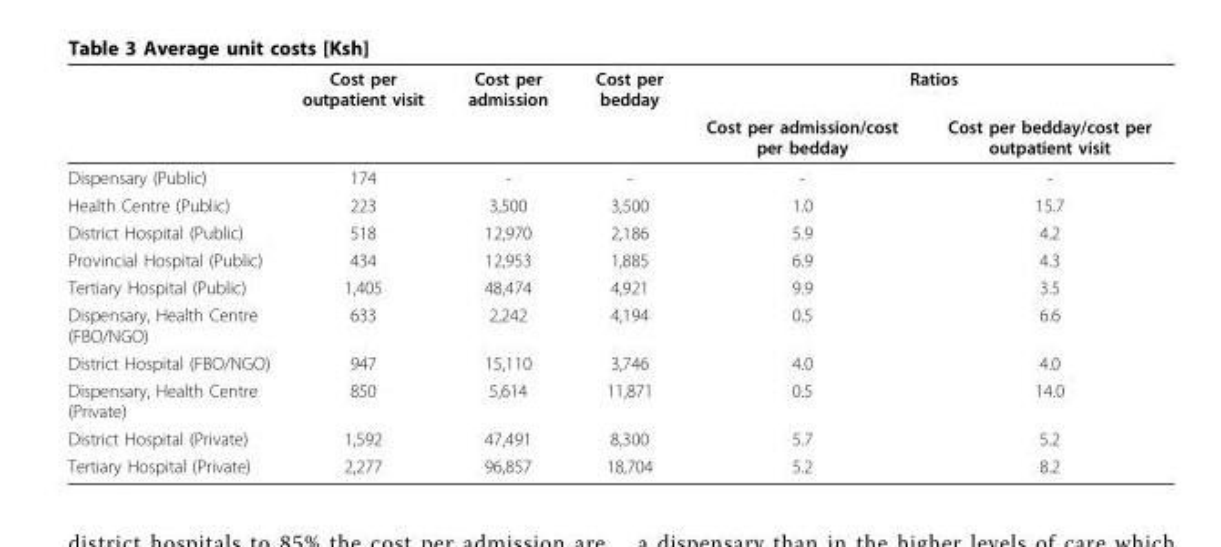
<table><thead><tr><td rowspan="2"></td><td rowspan="2">Cost per outpatient visit</td><td rowspan="2">Cost per admission</td><td rowspan="2">Cost per bedday</td><td colspan="2">Ratios</td></tr><tr><td>Cost per admission/cost per bedday</td><td>Cost per bedday/cost per outpatient visit</td></tr></thead><tbody><tr><td>Dispensary (Public)</td><td>174</td><td>-</td><td>-</td><td>-</td><td>-</td></tr><tr><td>Health Centre (Public)</td><td>223</td><td>3,500</td><td>3,500</td><td>1.0</td><td>15.7</td></tr><tr><td>District Hospital (Public)</td><td>518</td><td>12,970</td><td>2,186</td><td>5.9</td><td>4.2</td></tr><tr><td>Provincial Hospital (Public)</td><td>434</td><td>12,953</td><td>1,885</td><td>6.9</td><td>4.3</td></tr><tr><td>Tertiary Hospital (Public)</td><td>1,405</td><td>48,474</td><td>4,921</td><td>9.9</td><td>3.5</td></tr><tr><td>Dispensary, Health Centre (FBO/NGO)</td><td>633</td><td>2,242</td><td>4,194</td><td>0.5</td><td>6.6</td></tr><tr><td>District Hospital (FBO/NGO)</td><td>947</td><td>15,110</td><td>3,746</td><td>4.0</td><td>4.0</td></tr><tr><td>Dispensary, Health Centre (Private)</td><td>850</td><td>5,614</td><td>11,871</td><td>0.5</td><td>14.0</td></tr><tr><td>District Hospital (Private)</td><td>1,592</td><td>47,491</td><td>8,300</td><td>5.7</td><td>5.2</td></tr><tr><td>Tertiary Hospital (Private)</td><td>2,277</td><td>96,857</td><td>18,704</td><td>5.2</td><td>8.2</td></tr></tbody></table>